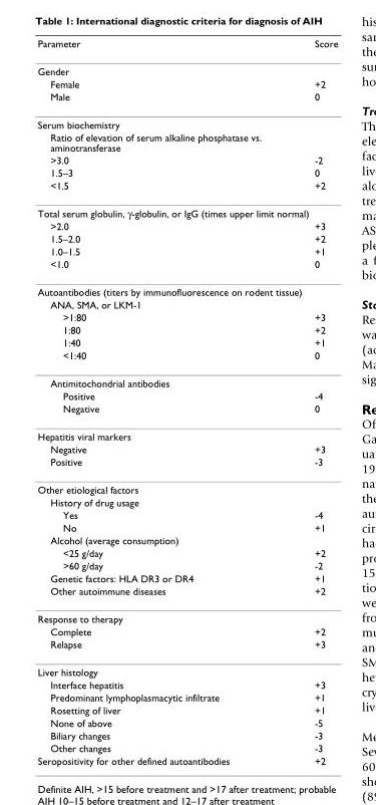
<table><thead><tr><td>Parameter</td><td>Score</td></tr></thead><tbody><tr><td colspan="2">Gender</td></tr><tr><td>Female</td><td>+2</td></tr><tr><td>Male</td><td>0</td></tr><tr><td colspan="2">Serum biochemistry</td></tr><tr><td colspan="2">Ratio of elevation of serum alkaline phosphatase vs. aminotransferase</td></tr><tr><td>&gt;3.0</td><td>-2</td></tr><tr><td>1.5–3</td><td>0</td></tr><tr><td>&lt;1.5</td><td>+2</td></tr><tr><td colspan="2">Total serum globulin, γ-globulin, or IgG (times upper limit normal)</td></tr><tr><td>&gt;2.0</td><td>+3</td></tr><tr><td>1.5–2.0</td><td>+2</td></tr><tr><td>1.0–1.5</td><td>+1</td></tr><tr><td>&lt;1.0</td><td>0</td></tr><tr><td colspan="2">Autoantibodies (titers by immunofluorescence on rodent tissue)</td></tr><tr><td colspan="2">ANA, SMA, or LKM-1</td></tr><tr><td>&gt;1:80</td><td>+3</td></tr><tr><td>1:80</td><td>+2</td></tr><tr><td>1:40</td><td>+1</td></tr><tr><td>&lt;1:40</td><td>0</td></tr><tr><td colspan="2">Antimitochondrial antibodies</td></tr><tr><td>Positive</td><td>-4</td></tr><tr><td>Negative</td><td>0</td></tr><tr><td colspan="2">Hepatitis viral markers</td></tr><tr><td>Negative</td><td>+3</td></tr><tr><td>Positive</td><td>-3</td></tr><tr><td colspan="2">Other etiological factors</td></tr><tr><td colspan="2">History of drug usage</td></tr><tr><td>Yes</td><td>-4</td></tr><tr><td>No</td><td>+1</td></tr><tr><td colspan="2">Alcohol (average consumption)</td></tr><tr><td>&lt;25 g/day</td><td>+2</td></tr><tr><td>&gt;60 g/day</td><td>-2</td></tr><tr><td>Genetic factors: HLA DR3 or DR4</td><td>+1</td></tr><tr><td>Other autoimmune diseases</td><td>+2</td></tr><tr><td colspan="2">Response to therapy</td></tr><tr><td>Complete</td><td>+2</td></tr><tr><td>Relapse</td><td>+3</td></tr><tr><td colspan="2">Liver histology</td></tr><tr><td>Interface hepatitis</td><td>+3</td></tr><tr><td>Predominant lymphoplasmacytic infiltrate</td><td>+1</td></tr><tr><td>Rosetting of liver</td><td>+1</td></tr><tr><td>None of above</td><td>-5</td></tr><tr><td>Biliary changes</td><td>-3</td></tr><tr><td>Other changes</td><td>-3</td></tr><tr><td>Seropositivity for other defined autoantibodies</td><td>+2</td></tr></tbody></table>